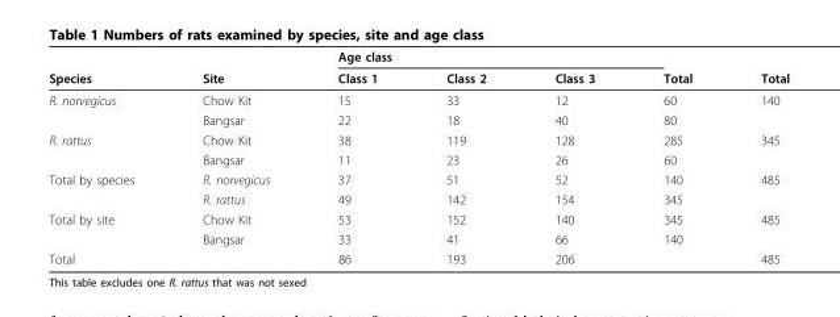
<table><thead><tr><td rowspan="2">Species</td><td rowspan="2">Site</td><td colspan="3">Age class</td><td rowspan="2">Total</td><td rowspan="2">Total</td></tr><tr><td>Class 1</td><td>Class 2</td><td>Class 3</td></tr></thead><tbody><tr><td rowspan="2">R. norvegicus</td><td>Chow Kit</td><td>15</td><td>33</td><td>12</td><td>60</td><td>140</td></tr><tr><td>Bangsar</td><td>22</td><td>18</td><td>40</td><td>80</td><td></td></tr><tr><td rowspan="2">R. rattus</td><td>Chow Kit</td><td>38</td><td>119</td><td>128</td><td>285</td><td>345</td></tr><tr><td>Bangsar</td><td>11</td><td>23</td><td>26</td><td>60</td><td></td></tr><tr><td rowspan="2">Total by species</td><td>R. norvegicus</td><td>37</td><td>51</td><td>52</td><td>140</td><td>485</td></tr><tr><td>R. rattus</td><td>49</td><td>142</td><td>154</td><td>345</td><td></td></tr><tr><td rowspan="2">Total by site</td><td>Chow Kit</td><td>53</td><td>152</td><td>140</td><td>345</td><td>485</td></tr><tr><td>Bangsar</td><td>33</td><td>41</td><td>66</td><td>140</td><td></td></tr><tr><td>Total</td><td></td><td>86</td><td>193</td><td>206</td><td></td><td>485</td></tr></tbody></table>